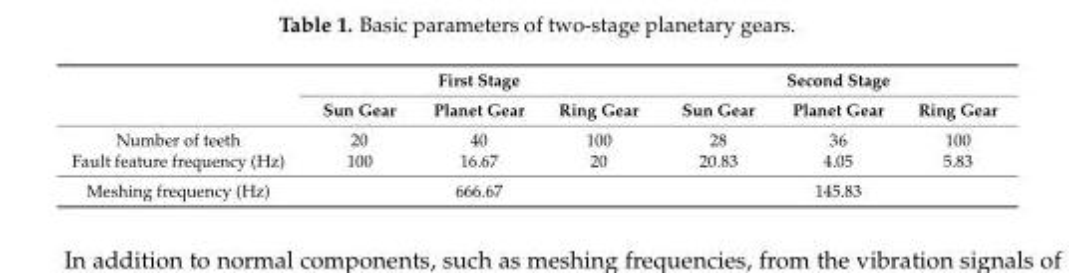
<table><thead><tr><td rowspan="2"></td><td colspan="3">First Stage</td><td colspan="3">Second Stage</td></tr><tr><td>Sun Gear</td><td>Planet Gear</td><td>Ring Gear</td><td>Sun Gear</td><td>Planet Gear</td><td>Ring Gear</td></tr></thead><tbody><tr><td>Number of teeth</td><td>20</td><td>40</td><td>100</td><td>28</td><td>36</td><td>100</td></tr><tr><td>Fault feature frequency (Hz)</td><td>100</td><td>16.67</td><td>20</td><td>20.83</td><td>4.05</td><td>5.83</td></tr><tr><td>Meshing frequency (Hz)</td><td colspan="3">666.67</td><td colspan="3">145.83</td></tr></tbody></table>